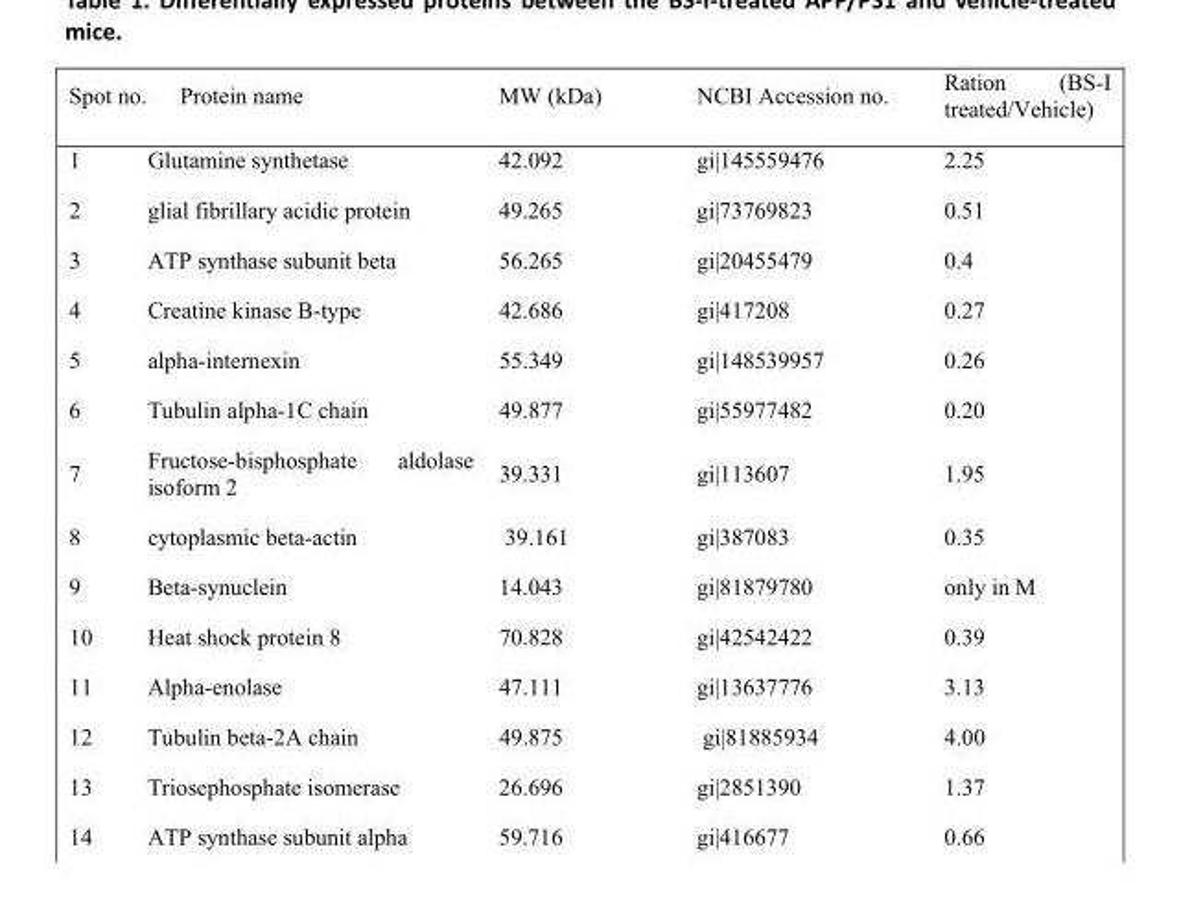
<table><thead><tr><td>Spot no.</td><td>Protein name</td><td>MW (kDa)</td><td>NCBI Accession no.</td><td>Ration (BS-I treated/Vehicle)</td></tr></thead><tbody><tr><td>1</td><td>Glutamine synthetase</td><td>42.092</td><td>gi|145559476</td><td>2.25</td></tr><tr><td>2</td><td>glial fibrillary acidic protein</td><td>49.265</td><td>gi|73769823</td><td>0.51</td></tr><tr><td>3</td><td>ATP synthase subunit beta</td><td>56.265</td><td>gi|20455479</td><td>0.4</td></tr><tr><td>4</td><td>Creatine kinase B-type</td><td>42.686</td><td>gi|417208</td><td>0.27</td></tr><tr><td>5</td><td>alpha-internexin</td><td>55.349</td><td>gi|148539957</td><td>0.26</td></tr><tr><td>6</td><td>Tubulin alpha-1C chain</td><td>49.877</td><td>gi|55977482</td><td>0.20</td></tr><tr><td>7</td><td>Fructose-bisphosphate aldolase isoform 2</td><td>39.331</td><td>gi|113607</td><td>1.95</td></tr><tr><td>8</td><td>cytoplasmic beta-actin</td><td>39.161</td><td>gi|387083</td><td>0.35</td></tr><tr><td>9</td><td>Beta-synuclein</td><td>14.043</td><td>gi|81879780</td><td>only in M</td></tr><tr><td>10</td><td>Heat shock protein 8</td><td>70.828</td><td>gi|42542422</td><td>0.39</td></tr><tr><td>11</td><td>Alpha-enolase</td><td>47.111</td><td>gi|13637776</td><td>3.13</td></tr><tr><td>12</td><td>Tubulin beta-2A chain</td><td>49.875</td><td>gi|81885934</td><td>4.00</td></tr><tr><td>13</td><td>Triosephosphate isomerase</td><td>26.696</td><td>gi|2851390</td><td>1.37</td></tr><tr><td>14</td><td>ATP synthase subunit alpha</td><td>59.716</td><td>gi|416677</td><td>0.66</td></tr></tbody></table>